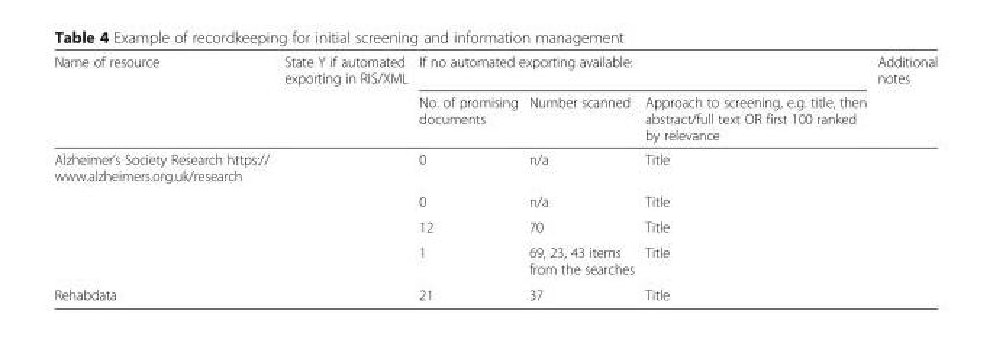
<table><thead><tr><td rowspan="2">Name of resource</td><td rowspan="2">State Y if automated exporting in RIS/XML</td><td colspan="3">If no automated exporting available:</td><td rowspan="2">Additional notes</td></tr><tr><td>No. of promising documents</td><td>Number scanned</td><td>Approach to screening, e.g. title, then abstract/full text OR first 100 ranked by relevance</td></tr></thead><tbody><tr><td rowspan="4">Alzheimer’s Society Research https:// www.alzheimers.org.uk/research</td><td></td><td>0</td><td>n/a</td><td>Title</td><td></td></tr><tr><td></td><td>0</td><td>n/a</td><td>Title</td><td></td></tr><tr><td></td><td>12</td><td>70</td><td>Title</td><td></td></tr><tr><td></td><td>1</td><td>69, 23, 43 items from the searches</td><td>Title</td><td></td></tr><tr><td>Rehabdata</td><td></td><td>21</td><td>37</td><td>Title</td><td></td></tr></tbody></table>